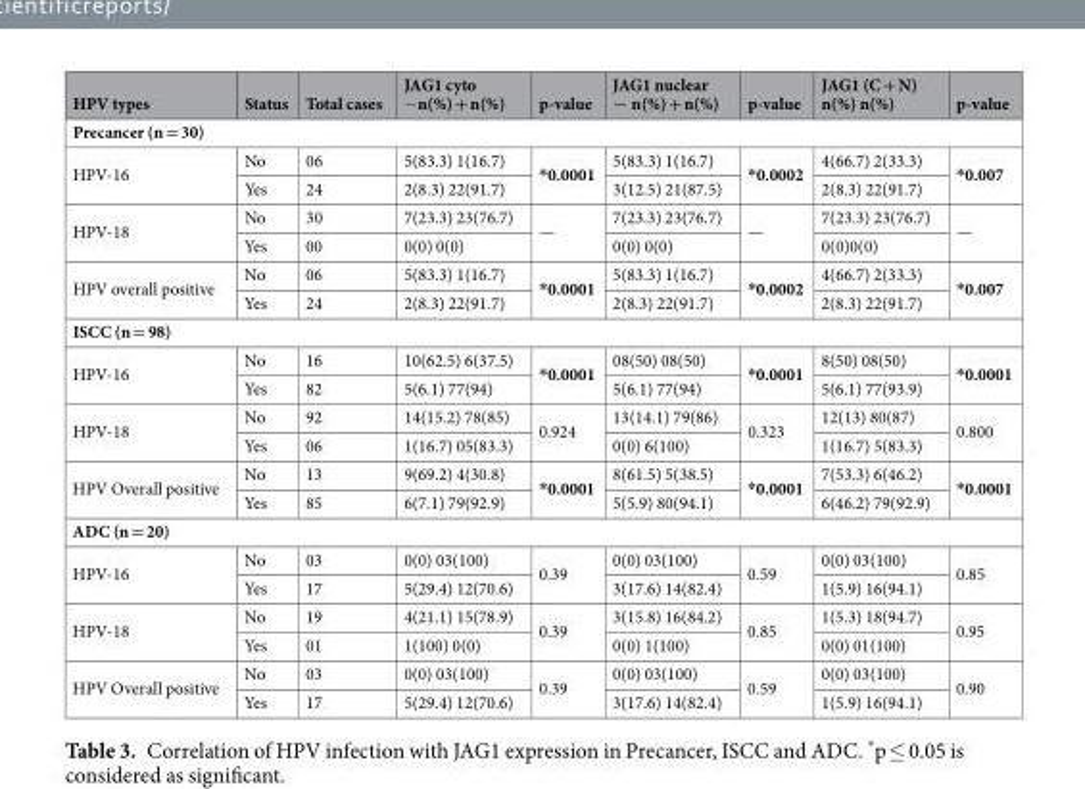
<table><thead><tr><td>HPV types</td><td>Status</td><td>Total cases</td><td>JAG1 cyto −n(%) + n(%)</td><td>p-value</td><td>JAG1 nuclear − n(%) + n(%)</td><td>p-value</td><td>JAG1 (C + N) n(%) n(%)</td><td>p-value</td></tr></thead><tbody><tr><td colspan="9">Precancer (n = 30)</td></tr><tr><td rowspan="2">HPV-16</td><td>No</td><td>06</td><td>5(83.3) 1(16.7)</td><td rowspan="2">*0.0001</td><td>5(83.3) 1(16.7)</td><td rowspan="2">*0.0002</td><td>4(66.7) 2(33.3)</td><td rowspan="2">*0.007</td></tr><tr><td>Yes</td><td>24</td><td>2(8.3) 22(91.7)</td><td>3(12.5) 21(87.5)</td><td>2(8.3) 22(91.7)</td></tr><tr><td rowspan="2">HPV-18</td><td>No</td><td>30</td><td>7(23.3) 23(76.7)</td><td rowspan="2">—</td><td>7(23.3) 23(76.7)</td><td rowspan="2">—</td><td>7(23.3) 23(76.7)</td><td rowspan="2">—</td></tr><tr><td>Yes</td><td>00</td><td>0(0) 0(0)</td><td>0(0) 0(0)</td><td>0(0)0(0)</td></tr><tr><td rowspan="2">HPV overall positive</td><td>No</td><td>06</td><td>5(83.3) 1(16.7)</td><td rowspan="2">*0.0001</td><td>5(83.3) 1(16.7)</td><td rowspan="2">*0.0002</td><td>4(66.7) 2(33.3)</td><td rowspan="2">*0.007</td></tr><tr><td>Yes</td><td>24</td><td>2(8.3) 22(91.7)</td><td>2(8.3) 22(91.7)</td><td>2(8.3) 22(91.7)</td></tr><tr><td colspan="9">ISCC (n = 98)</td></tr><tr><td rowspan="2">HPV-16</td><td>No</td><td>16</td><td>10(62.5) 6(37.5)</td><td rowspan="2">*0.0001</td><td>08(50) 08(50)</td><td rowspan="2">*0.0001</td><td>8(50) 08(50)</td><td rowspan="2">*0.0001</td></tr><tr><td>Yes</td><td>82</td><td>5(6.1) 77(94)</td><td>5(6.1) 77(94)</td><td>5(6.1) 77(93.9)</td></tr><tr><td rowspan="2">HPV-18</td><td>No</td><td>92</td><td>14(15.2) 78(85)</td><td rowspan="2">0.924</td><td>13(14.1) 79(86)</td><td rowspan="2">0.323</td><td>12(13) 80(87)</td><td rowspan="2">0.800</td></tr><tr><td>Yes</td><td>06</td><td>1(16.7) 05(83.3)</td><td>0(0) 6(100)</td><td>1(16.7) 5(83.3)</td></tr><tr><td rowspan="2">HPV Overall positive</td><td>No</td><td>13</td><td>9(69.2) 4(30.8)</td><td rowspan="2">*0.0001</td><td>8(61.5) 5(38.5)</td><td rowspan="2">*0.0001</td><td>7(53.3) 6(46.2)</td><td rowspan="2">*0.0001</td></tr><tr><td>Yes</td><td>85</td><td>6(7.1) 79(92.9)</td><td>5(5.9) 80(94.1)</td><td>6(46.2) 79(92.9)</td></tr><tr><td colspan="9">ADC (n = 20)</td></tr><tr><td rowspan="2">HPV-16</td><td>No</td><td>03</td><td>0(0) 03(100)</td><td rowspan="2">0.39</td><td>0(0) 03(100)</td><td rowspan="2">0.59</td><td>0(0) 03(100)</td><td rowspan="2">0.85</td></tr><tr><td>Yes</td><td>17</td><td>5(29.4) 12(70.6)</td><td>3(17.6) 14(82.4)</td><td>1(5.9) 16(94.1)</td></tr><tr><td rowspan="2">HPV-18</td><td>No</td><td>19</td><td>4(21.1) 15(78.9)</td><td rowspan="2">0.39</td><td>3(15.8) 16(84.2)</td><td rowspan="2">0.85</td><td>1(5.3) 18(94.7)</td><td rowspan="2">0.95</td></tr><tr><td>Yes</td><td>01</td><td>1(100) 0(0)</td><td>0(0) 1(100)</td><td>0(0) 01(100)</td></tr><tr><td rowspan="2">HPV Overall positive</td><td>No</td><td>03</td><td>0(0) 03(100)</td><td rowspan="2">0.39</td><td>0(0) 03(100)</td><td rowspan="2">0.59</td><td>0(0) 03(100)</td><td rowspan="2">0.90</td></tr><tr><td>Yes</td><td>17</td><td>5(29.4) 12(70.6)</td><td>3(17.6) 14(82.4)</td><td>1(5.9) 16(94.1)</td></tr></tbody></table>